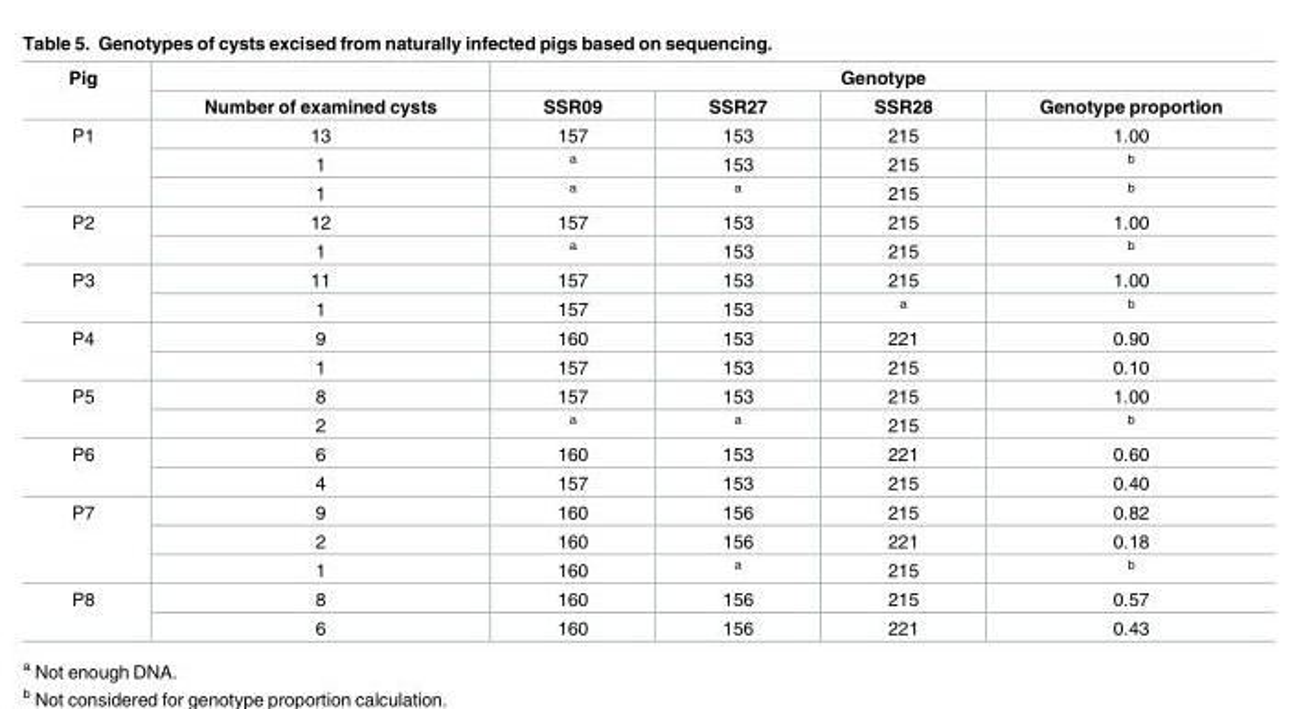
<table><thead><tr><td rowspan="2">Pig</td><td rowspan="2">Number of examined cysts</td><td colspan="4">Genotype</td></tr><tr><td>SSR09</td><td>SSR27</td><td>SSR28</td><td>Genotype proportion</td></tr></thead><tbody><tr><td rowspan="3">P1</td><td>13</td><td>157</td><td>153</td><td>215</td><td>1.00</td></tr><tr><td>1</td><td><sup>a</sup></td><td>153</td><td>215</td><td><sup>b</sup></td></tr><tr><td>1</td><td><sup>a</sup></td><td><sup>a</sup></td><td>215</td><td><sup>b</sup></td></tr><tr><td rowspan="2">P2</td><td>12</td><td>157</td><td>153</td><td>215</td><td>1.00</td></tr><tr><td>1</td><td><sup>a</sup></td><td>153</td><td>215</td><td><sup>b</sup></td></tr><tr><td rowspan="2">P3</td><td>11</td><td>157</td><td>153</td><td>215</td><td>1.00</td></tr><tr><td>1</td><td>157</td><td>153</td><td><sup>a</sup></td><td><sup>b</sup></td></tr><tr><td rowspan="2">P4</td><td>9</td><td>160</td><td>153</td><td>221</td><td>0.90</td></tr><tr><td>1</td><td>157</td><td>153</td><td>215</td><td>0.10</td></tr><tr><td rowspan="2">P5</td><td>8</td><td>157</td><td>153</td><td>215</td><td>1.00</td></tr><tr><td>2</td><td><sup>a</sup></td><td><sup>a</sup></td><td>215</td><td><sup>b</sup></td></tr><tr><td rowspan="2">P6</td><td>6</td><td>160</td><td>153</td><td>221</td><td>0.60</td></tr><tr><td>4</td><td>157</td><td>153</td><td>215</td><td>0.40</td></tr><tr><td rowspan="3">P7</td><td>9</td><td>160</td><td>156</td><td>215</td><td>0.82</td></tr><tr><td>2</td><td>160</td><td>156</td><td>221</td><td>0.18</td></tr><tr><td>1</td><td>160</td><td><sup>a</sup></td><td>215</td><td><sup>b</sup></td></tr><tr><td rowspan="2">P8</td><td>8</td><td>160</td><td>156</td><td>215</td><td>0.57</td></tr><tr><td>6</td><td>160</td><td>156</td><td>221</td><td>0.43</td></tr></tbody></table>